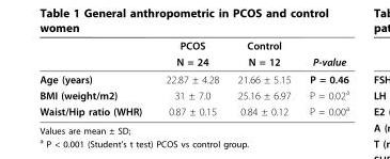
<table><thead><tr><td rowspan="2"></td><td rowspan="2">PCOS N = 24</td><td rowspan="2">Control N = 12</td><td rowspan="2">P-value</td></tr><tr></tr></thead><tbody><tr><td>Age (years)</td><td>22.87 ± 4.28</td><td>21.66 ± 5.15</td><td>P = 0.46</td></tr><tr><td>BMI (weight/m2)</td><td>31 ± 7.0</td><td>25.16 ± 6.97</td><td>P = 0.02<sup>a</sup></td></tr><tr><td>Waist/Hip ratio (WHR)</td><td>0.87 ± 0.15</td><td>0.84 ± 0.12</td><td>P = 0.00<sup>a</sup></td></tr></tbody></table>